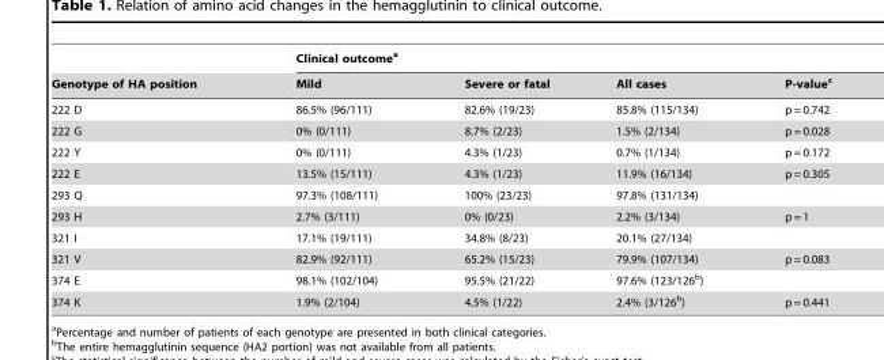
<table><thead><tr><td rowspan="2">Genotype of HA position</td><td colspan="4">Clinical outcome<sup>a</sup></td></tr><tr><td>Mild</td><td>Severe or fatal</td><td>All cases</td><td>P-value<sup>c</sup></td></tr></thead><tbody><tr><td>222 D</td><td>86.5% (96/111)</td><td>82.6% (19/23)</td><td>85.8% (115/134)</td><td>p = 0.742</td></tr><tr><td>222 G</td><td>0% (0/111)</td><td>8.7% (2/23)</td><td>1.5% (2/134)</td><td>p = 0.028</td></tr><tr><td>222 Y</td><td>0% (0/111)</td><td>4.3% (1/23)</td><td>0.7% (1/134)</td><td>p = 0.172</td></tr><tr><td>222 E</td><td>13.5% (15/111)</td><td>4.3% (1/23)</td><td>11.9% (16/134)</td><td>p = 0.305</td></tr><tr><td>293 Q</td><td>97.3% (108/111)</td><td>100% (23/23)</td><td>97.8% (131/134)</td><td></td></tr><tr><td>293 H</td><td>2.7% (3/111)</td><td>0% (0/23)</td><td>2.2% (3/134)</td><td>p = 1</td></tr><tr><td>321 I</td><td>17.1% (19/111)</td><td>34.8% (8/23)</td><td>20.1% (27/134)</td><td></td></tr><tr><td>321 V</td><td>82.9% (92/111)</td><td>65.2% (15/23)</td><td>79.9% (107/134)</td><td>p = 0.083</td></tr><tr><td>374 E</td><td>98.1% (102/104)</td><td>95.5% (21/22)</td><td>97.6% (123/126<sup>b</sup>)</td><td></td></tr><tr><td>374 K</td><td>1.9% (2/104)</td><td>4.5% (1/22)</td><td>2.4% (3/126<sup>b</sup>)</td><td>p = 0.441</td></tr></tbody></table>